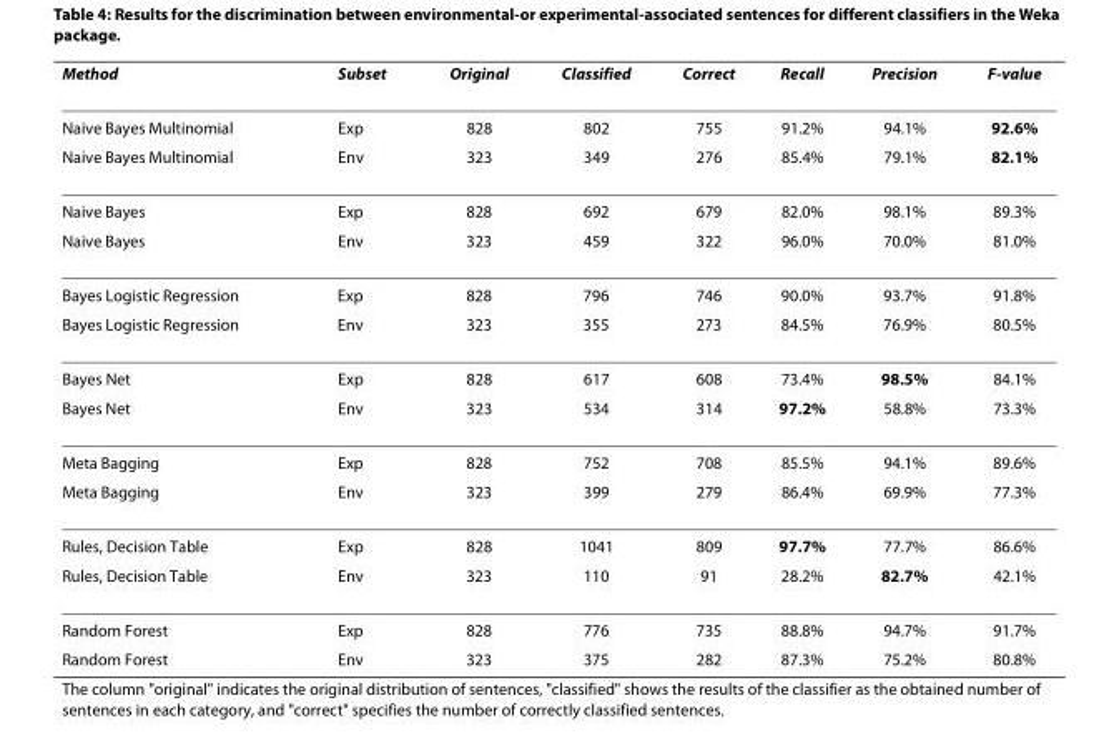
<table><thead><tr><td>Method</td><td>Subset</td><td>Original</td><td>Classified</td><td>Correct</td><td>Recall</td><td>Precision</td><td>F-value</td></tr></thead><tbody><tr><td>Naive Bayes Multinomial</td><td>Exp</td><td>828</td><td>802</td><td>755</td><td>91.2%</td><td>94.1%</td><td>92.6%</td></tr><tr><td>Naive Bayes Multinomial</td><td>Env</td><td>323</td><td>349</td><td>276</td><td>85.4%</td><td>79.1%</td><td>82.1%</td></tr><tr><td>Naive Bayes</td><td>Exp</td><td>828</td><td>692</td><td>679</td><td>82.0%</td><td>98.1%</td><td>89.3%</td></tr><tr><td>Naive Bayes</td><td>Env</td><td>323</td><td>459</td><td>322</td><td>96.0%</td><td>70.0%</td><td>81.0%</td></tr><tr><td>Bayes Logistic Regression</td><td>Exp</td><td>828</td><td>796</td><td>746</td><td>90.0%</td><td>93.7%</td><td>91.8%</td></tr><tr><td>Bayes Logistic Regression</td><td>Env</td><td>323</td><td>355</td><td>273</td><td>84.5%</td><td>76.9%</td><td>80.5%</td></tr><tr><td>Bayes Net</td><td>Exp</td><td>828</td><td>617</td><td>608</td><td>73.4%</td><td>98.5%</td><td>84.1%</td></tr><tr><td>Bayes Net</td><td>Env</td><td>323</td><td>534</td><td>314</td><td>97.2%</td><td>58.8%</td><td>73.3%</td></tr><tr><td>Meta Bagging</td><td>Exp</td><td>828</td><td>752</td><td>708</td><td>85.5%</td><td>94.1%</td><td>89.6%</td></tr><tr><td>Meta Bagging</td><td>Env</td><td>323</td><td>399</td><td>279</td><td>86.4%</td><td>69.9%</td><td>77.3%</td></tr><tr><td>Rules, Decision Table</td><td>Exp</td><td>828</td><td>1041</td><td>809</td><td>97.7%</td><td>77.7%</td><td>86.6%</td></tr><tr><td>Rules, Decision Table</td><td>Env</td><td>323</td><td>110</td><td>91</td><td>28.2%</td><td>82.7%</td><td>42.1%</td></tr><tr><td>Random Forest</td><td>Exp</td><td>828</td><td>776</td><td>735</td><td>88.8%</td><td>94.7%</td><td>91.7%</td></tr><tr><td>Random Forest</td><td>Env</td><td>323</td><td>375</td><td>282</td><td>87.3%</td><td>75.2%</td><td>80.8%</td></tr></tbody></table>